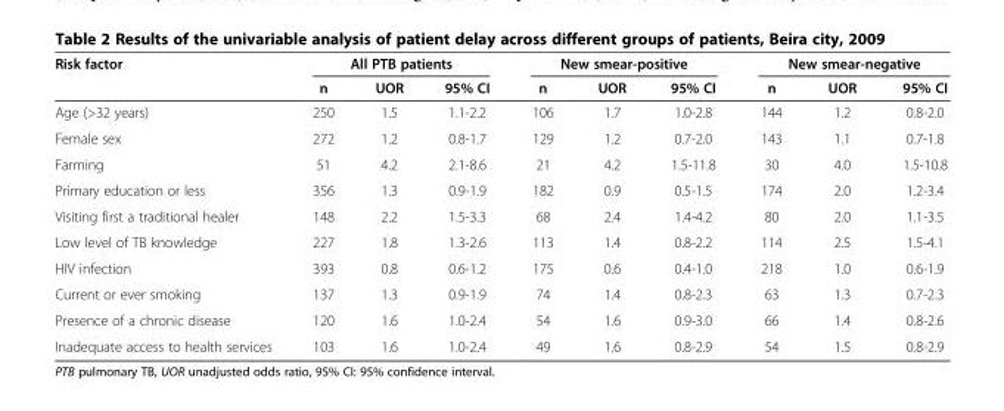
<table><thead><tr><td rowspan="2">Risk factor</td><td colspan="3">All PTB patients</td><td colspan="3">New smear-positive</td><td colspan="3">New smear-negative</td></tr><tr><td>n</td><td>UOR</td><td>95% CI</td><td>n</td><td>UOR</td><td>95% CI</td><td>n</td><td>UOR</td><td>95% CI</td></tr></thead><tbody><tr><td>Age (&gt;32 years)</td><td>250</td><td>1.5</td><td>1.1-2.2</td><td>106</td><td>1.7</td><td>1.0-2.8</td><td>144</td><td>1.2</td><td>0.8-2.0</td></tr><tr><td>Female sex</td><td>272</td><td>1.2</td><td>0.8-1.7</td><td>129</td><td>1.2</td><td>0.7-2.0</td><td>143</td><td>1.1</td><td>0.7-1.8</td></tr><tr><td>Farming</td><td>51</td><td>4.2</td><td>2.1-8.6</td><td>21</td><td>4.2</td><td>1.5-11.8</td><td>30</td><td>4.0</td><td>1.5-10.8</td></tr><tr><td>Primary education or less</td><td>356</td><td>1.3</td><td>0.9-1.9</td><td>182</td><td>0.9</td><td>0.5-1.5</td><td>174</td><td>2.0</td><td>1.2-3.4</td></tr><tr><td>Visiting first a traditional healer</td><td>148</td><td>2.2</td><td>1.5-3.3</td><td>68</td><td>2.4</td><td>1.4-4.2</td><td>80</td><td>2.0</td><td>1.1-3.5</td></tr><tr><td>Low level of TB knowledge</td><td>227</td><td>1.8</td><td>1.3-2.6</td><td>113</td><td>1.4</td><td>0.8-2.2</td><td>114</td><td>2.5</td><td>1.5-4.1</td></tr><tr><td>HIV infection</td><td>393</td><td>0.8</td><td>0.6-1.2</td><td>175</td><td>0.6</td><td>0.4-1.0</td><td>218</td><td>1.0</td><td>0.6-1.9</td></tr><tr><td>Current or ever smoking</td><td>137</td><td>1.3</td><td>0.9-1.9</td><td>74</td><td>1.4</td><td>0.8-2.3</td><td>63</td><td>1.3</td><td>0.7-2.3</td></tr><tr><td>Presence of a chronic disease</td><td>120</td><td>1.6</td><td>1.0-2.4</td><td>54</td><td>1.6</td><td>0.9-3.0</td><td>66</td><td>1.4</td><td>0.8-2.6</td></tr><tr><td>Inadequate access to health services</td><td>103</td><td>1.6</td><td>1.0-2.4</td><td>49</td><td>1.6</td><td>0.8-2.9</td><td>54</td><td>1.5</td><td>0.8-2.9</td></tr></tbody></table>